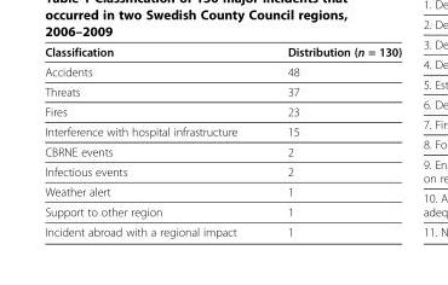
<table><thead><tr><td>Classification</td><td>Distribution (n = 130)</td></tr></thead><tbody><tr><td>Accidents</td><td>48</td></tr><tr><td>Threats</td><td>37</td></tr><tr><td>Fires</td><td>23</td></tr><tr><td>Interference with hospital infrastructure</td><td>15</td></tr><tr><td>CBRNE events</td><td>2</td></tr><tr><td>Infectious events</td><td>2</td></tr><tr><td>Weather alert</td><td>1</td></tr><tr><td>Support to other region</td><td>1</td></tr><tr><td>Incident abroad with a regional impact</td><td>1</td></tr></tbody></table>